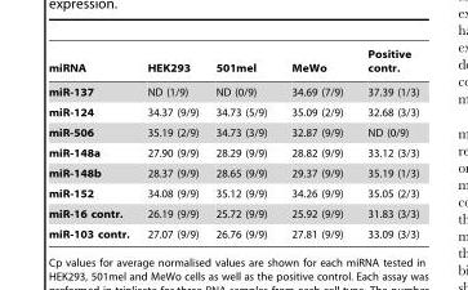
<table><thead><tr><td>miRNA</td><td>HEK293</td><td>501mel</td><td>MeWo</td><td>Positive contr.</td></tr></thead><tbody><tr><td>miR-137</td><td>ND (1/9)</td><td>ND (0/9)</td><td>34.69 (7/9)</td><td>37.39 (1/3)</td></tr><tr><td>miR-124</td><td>34.37 (9/9)</td><td>34.73 (5/9)</td><td>35.09 (2/9)</td><td>32.68 (3/3)</td></tr><tr><td>miR-506</td><td>35.19 (2/9)</td><td>34.73 (3/9)</td><td>32.87 (9/9)</td><td>ND (0/9)</td></tr><tr><td>miR-148a</td><td>27.90 (9/9)</td><td>28.29 (9/9)</td><td>28.82 (9/9)</td><td>33.12 (3/3)</td></tr><tr><td>miR-148b</td><td>28.37 (9/9)</td><td>28.65 (9/9)</td><td>29.37 (9/9)</td><td>35.19 (1/3)</td></tr><tr><td>miR-152</td><td>34.08 (9/9)</td><td>35.12 (9/9)</td><td>34.26 (9/9)</td><td>35.05 (2/3)</td></tr><tr><td>miR-16 contr.</td><td>26.19 (9/9)</td><td>25.72 (9/9)</td><td>25.92 (9/9)</td><td>31.83 (3/3)</td></tr><tr><td>miR-103 contr.</td><td>27.07 (9/9)</td><td>26.76 (9/9)</td><td>27.81 (9/9)</td><td>33.09 (3/3)</td></tr></tbody></table>